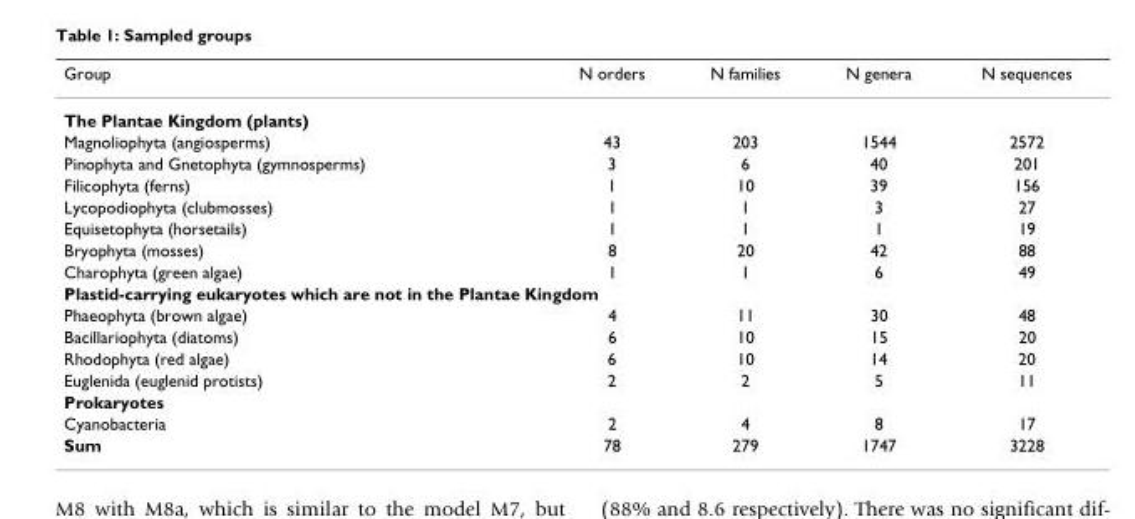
<table><thead><tr><td>Group</td><td>N orders</td><td>N families</td><td>N genera</td><td>N sequences</td></tr></thead><tbody><tr><td colspan="5">The Plantae Kingdom (plants)</td></tr><tr><td>Magnoliophyta (angiosperms)</td><td>43</td><td>203</td><td>1544</td><td>2572</td></tr><tr><td>Pinophyta and Gnetophyta (gymnosperms)</td><td>3</td><td>6</td><td>40</td><td>201</td></tr><tr><td>Filicophyta (ferns)</td><td>1</td><td>10</td><td>39</td><td>156</td></tr><tr><td>Lycopodiophyta (clubmosses)</td><td>1</td><td>1</td><td>3</td><td>27</td></tr><tr><td>Equisetophyta (horsetails)</td><td>1</td><td>1</td><td>1</td><td>19</td></tr><tr><td>Bryophyta (mosses)</td><td>8</td><td>20</td><td>42</td><td>88</td></tr><tr><td>Charophyta (green algae)</td><td>1</td><td>1</td><td>6</td><td>49</td></tr><tr><td colspan="5">Plastid-carrying eukaryotes which are not in the Plantae Kingdom</td></tr><tr><td>Phaeophyta (brown algae)</td><td>4</td><td>11</td><td>30</td><td>48</td></tr><tr><td>Bacillariophyta (diatoms)</td><td>6</td><td>10</td><td>15</td><td>20</td></tr><tr><td>Rhodophyta (red algae)</td><td>6</td><td>10</td><td>14</td><td>20</td></tr><tr><td>Euglenida (euglenid protists)</td><td>2</td><td>2</td><td>5</td><td>11</td></tr><tr><td colspan="5">Prokaryotes</td></tr><tr><td>Cyanobacteria</td><td>2</td><td>4</td><td>8</td><td>17</td></tr><tr><td>Sum</td><td>78</td><td>279</td><td>1747</td><td>3228</td></tr></tbody></table>